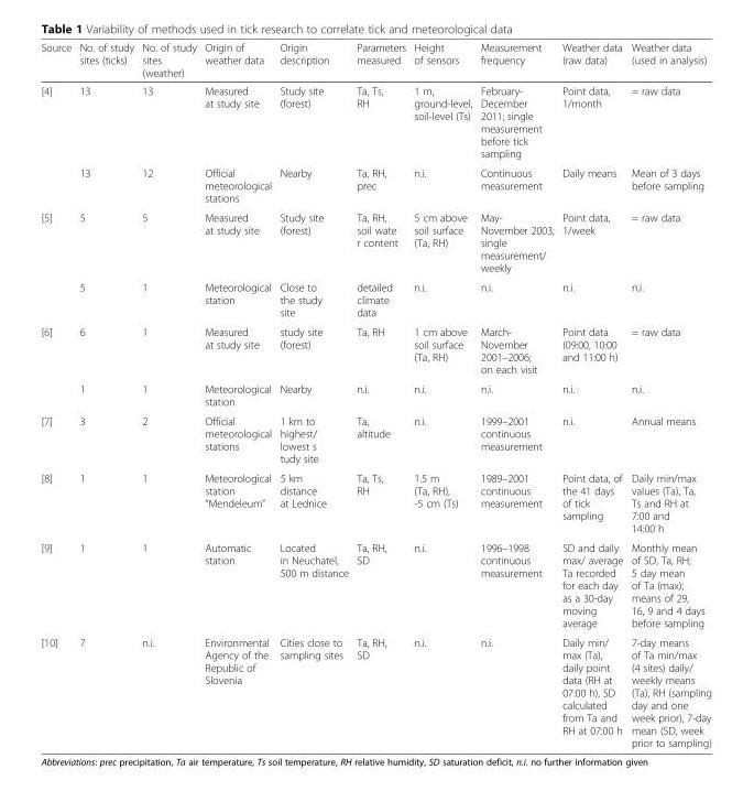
<table><thead><tr><td>Source</td><td>No. of study sites (ticks)</td><td>No. of study sites (weather)</td><td>Origin of weather data</td><td>Origin description</td><td>Parameters measured</td><td>Height of sensors</td><td>Measurement frequency</td><td>Weather data (raw data)</td><td>Weather data (used in analysis)</td></tr></thead><tbody><tr><td rowspan="2">[4]</td><td>13</td><td>13</td><td>Measured at study site</td><td>Study site (forest)</td><td>Ta, Ts, RH</td><td>1 m, ground-level, soil-level (Ts)</td><td>February- December 2011; single measurement before tick sampling</td><td>Point data, 1/month</td><td>= raw data</td></tr><tr><td>13</td><td>12</td><td>Official meteorological stations</td><td>Nearby</td><td>Ta, RH, prec</td><td>n.i.</td><td>Continuous measurement</td><td>Daily means</td><td>Mean of 3 days before sampling</td></tr><tr><td rowspan="2">[5]</td><td>5</td><td>5</td><td>Measured at study site</td><td>Study site (forest)</td><td>Ta, RH, soil wate r content</td><td>5 cm above soil surface (Ta, RH)</td><td>May- November 2003; single measurement/ weekly</td><td>Point data, 1/week</td><td>= raw data</td></tr><tr><td>5</td><td>1</td><td>Meteorological station</td><td>Close to the study site</td><td>detailed climate data</td><td>n.i.</td><td>n.i.</td><td>n.i.</td><td>n.i.</td></tr><tr><td rowspan="2">[6]</td><td>6</td><td>1</td><td>Measured at study site</td><td>study site (forest)</td><td>Ta, RH</td><td>1 cm above soil surface (Ta, RH)</td><td>March- November 2001–2006; on each visit</td><td>Point data (09:00, 10:00 and 11:00 h)</td><td>= raw data</td></tr><tr><td>1</td><td>1</td><td>Meteorological station</td><td>Nearby</td><td>n.i.</td><td>n.i.</td><td>n.i.</td><td>n.i.</td><td>n.i.</td></tr><tr><td>[7]</td><td>3</td><td>2</td><td>Official meteorological stations</td><td>1 km to highest/ lowest s tudy site</td><td>Ta, altitude</td><td>n.i.</td><td>1999–2001 continuous measurement</td><td>n.i.</td><td>Annual means</td></tr><tr><td>[8]</td><td>1</td><td>1</td><td>Meteorological station “Mendeleum”</td><td>5 km distance at Lednice</td><td>Ta, Ts, RH</td><td>1.5 m (Ta, RH), -5 cm (Ts)</td><td>1989–2001 continuous measurement</td><td>Point data, of the 41 days of tick sampling</td><td>Daily min/max values (Ta), Ta, Ts and RH at 7:00 and 14:00 h</td></tr><tr><td>[9]</td><td>1</td><td>1</td><td>Automatic station</td><td>Located in Neuchatel, 500 m distance</td><td>Ta, RH, SD</td><td>n.i.</td><td>1996–1998 continuous measurement</td><td>SD and daily max/ average Ta recorded for each day as a 30-day moving average</td><td>Monthly mean of SD, Ta, RH; 5 day mean of Ta (max); means of 29, 16, 9 and 4 days before sampling</td></tr><tr><td>[10]</td><td>7</td><td>n.i.</td><td>Environmental Agency of the Republic of Slovenia</td><td>Cities close to sampling sites</td><td>Ta, RH, SD</td><td>n.i.</td><td>n.i.</td><td>Daily min/ max (Ta), daily point data (RH at 07:00 h), SD calculated from Ta and RH at 07:00 h</td><td>7-day means of Ta min/max (4 sites) daily/ weekly means (Ta), RH (sampling day and one week prior), 7-day mean (SD, week prior to sampling)</td></tr></tbody></table>